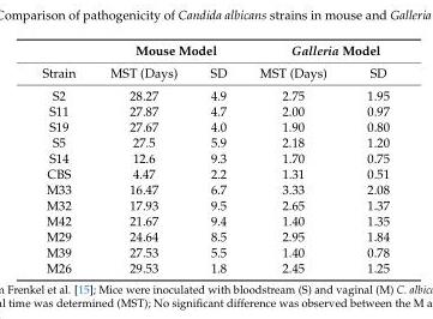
<table><thead><tr><td rowspan="2">Strain</td><td colspan="2">Mouse Model</td><td colspan="2">Galleria Model</td></tr><tr><td>MST (Days)</td><td>SD</td><td>MST (Days)</td><td>SD</td></tr></thead><tbody><tr><td>S2</td><td>28.27</td><td>4.9</td><td>2.75</td><td>1.95</td></tr><tr><td>S11</td><td>27.87</td><td>4.7</td><td>2.00</td><td>0.97</td></tr><tr><td>S19</td><td>27.67</td><td>4.0</td><td>1.90</td><td>0.80</td></tr><tr><td>S5</td><td>27.5</td><td>5.9</td><td>2.18</td><td>1.20</td></tr><tr><td>S14</td><td>12.6</td><td>9.3</td><td>1.70</td><td>0.75</td></tr><tr><td>CBS</td><td>4.47</td><td>2.2</td><td>1.31</td><td>0.51</td></tr><tr><td>M33</td><td>16.47</td><td>6.7</td><td>3.33</td><td>2.08</td></tr><tr><td>M32</td><td>17.93</td><td>9.5</td><td>2.65</td><td>1.37</td></tr><tr><td>M42</td><td>21.67</td><td>9.4</td><td>1.40</td><td>1.35</td></tr><tr><td>M29</td><td>24.64</td><td>8.5</td><td>2.95</td><td>1.84</td></tr><tr><td>M39</td><td>27.53</td><td>5.5</td><td>1.40</td><td>0.78</td></tr><tr><td>M26</td><td>29.53</td><td>1.8</td><td>2.45</td><td>1.25</td></tr></tbody></table>